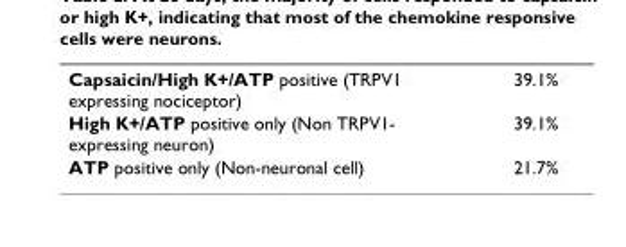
<table><tbody><tr><td>Capsaicin/High K+/ATP positive (TRPV1 expressing nociceptor)</td><td>39.1%</td></tr><tr><td>High K+/ATP positive only (Non TRPV1- expressing neuron)</td><td>39.1%</td></tr><tr><td>ATP positive only (Non-neuronal cell)</td><td>21.7%</td></tr></tbody></table>